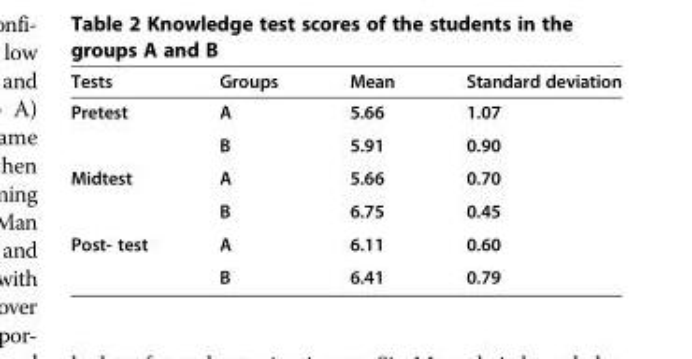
<table><thead><tr><td>Tests</td><td>Groups</td><td>Mean</td><td>Standard deviation</td></tr></thead><tbody><tr><td rowspan="2">Pretest</td><td>A</td><td>5.66</td><td>1.07</td></tr><tr><td>B</td><td>5.91</td><td>0.90</td></tr><tr><td rowspan="2">Midtest</td><td>A</td><td>5.66</td><td>0.70</td></tr><tr><td>B</td><td>6.75</td><td>0.45</td></tr><tr><td rowspan="2">Post- test</td><td>A</td><td>6.11</td><td>0.60</td></tr><tr><td>B</td><td>6.41</td><td>0.79</td></tr></tbody></table>